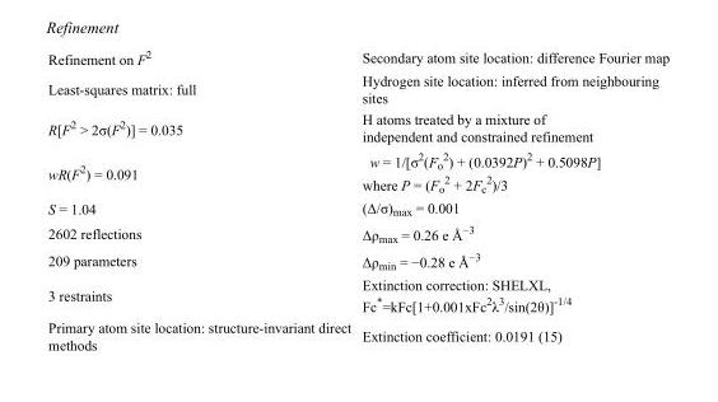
<table><tbody><tr><td>Refinement on F<sup>2</sup></td><td>Secondary atom site location: difference Fourier map</td></tr><tr><td>Least-squares matrix: full</td><td>Hydrogen site location: inferred from neighbouring sites</td></tr><tr><td>R[F<sup>2</sup> &gt; 2σ(F<sup>2</sup>)] = 0.035</td><td>H atoms treated by a mixture of independent and constrained refinement</td></tr><tr><td>wR(F<sup>2</sup>) = 0.091</td><td>w = 1/[σ<sup>2</sup>(F<sub>o</sub> <sup>2</sup>) + (0.0392P)<sup>2</sup> + 0.5098P] where P = (F<sub>o</sub> <sup>2</sup> + 2F<sub>c</sub> <sup>2</sup>)/3</td></tr><tr><td>S = 1.04</td><td>(Δ/σ)<sub>max</sub> = 0.001</td></tr><tr><td>2602 reflections</td><td>Δρ<sub>max</sub> = 0.26 e Å<sup>−3</sup></td></tr><tr><td>209 parameters</td><td>Δρ<sub>min</sub> = −0.28 e Å<sup>−3</sup></td></tr><tr><td>3 restraints</td><td>Extinction correction: SHELXL, Fc*=kFc[1+0.001xFc<sup>2</sup>λ<sup>3</sup>/sin(2θ)]<sup>-1/4</sup></td></tr><tr><td>Primary atom site location: structure-invariant direct methods</td><td>Extinction coefficient: 0.0191 (15)</td></tr></tbody></table>